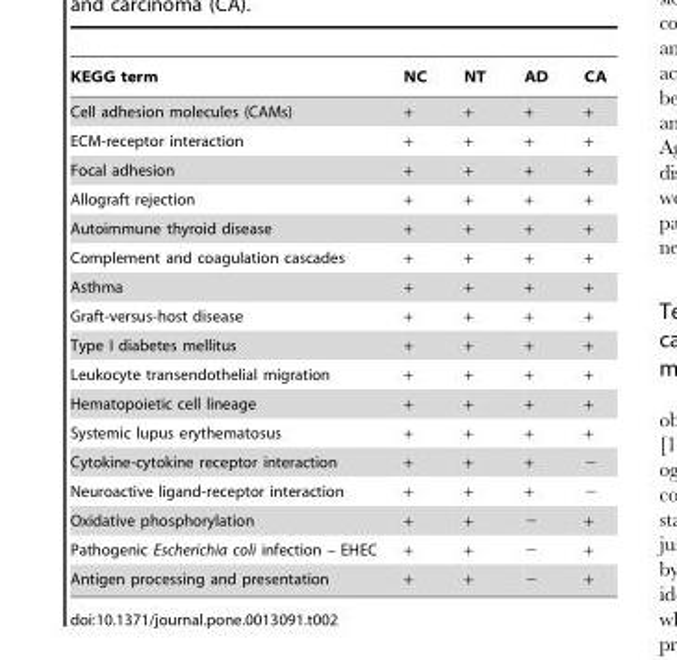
<table><thead><tr><td>KEGG term</td><td>NC</td><td>NT</td><td>AD</td><td>CA</td></tr></thead><tbody><tr><td>Cell adhesion molecules (CAMs)</td><td>+</td><td>+</td><td>+</td><td>+</td></tr><tr><td>ECM-receptor interaction</td><td>+</td><td>+</td><td>+</td><td>+</td></tr><tr><td>Focal adhesion</td><td>+</td><td>+</td><td>+</td><td>+</td></tr><tr><td>Allograft rejection</td><td>+</td><td>+</td><td>+</td><td>+</td></tr><tr><td>Autoimmune thyroid disease</td><td>+</td><td>+</td><td>+</td><td>+</td></tr><tr><td>Complement and coagulation cascades</td><td>+</td><td>+</td><td>+</td><td>+</td></tr><tr><td>Asthma</td><td>+</td><td>+</td><td>+</td><td>+</td></tr><tr><td>Graft-versus-host disease</td><td>+</td><td>+</td><td>+</td><td>+</td></tr><tr><td>Type I diabetes mellitus</td><td>+</td><td>+</td><td>+</td><td>+</td></tr><tr><td>Leukocyte transendothelial migration</td><td>+</td><td>+</td><td>+</td><td>+</td></tr><tr><td>Hematopoietic cell lineage</td><td>+</td><td>+</td><td>+</td><td>+</td></tr><tr><td>Systemic lupus erythematosus</td><td>+</td><td>+</td><td>+</td><td>+</td></tr><tr><td>Cytokine-cytokine receptor interaction</td><td>+</td><td>+</td><td>+</td><td>−</td></tr><tr><td>Neuroactive ligand-receptor interaction</td><td>+</td><td>+</td><td>+</td><td>−</td></tr><tr><td>Oxidative phosphorylation</td><td>+</td><td>+</td><td>−</td><td>+</td></tr><tr><td>Pathogenic Escherichia coli infection – EHEC</td><td>+</td><td>+</td><td>−</td><td>+</td></tr><tr><td>Antigen processing and presentation</td><td>+</td><td>+</td><td>−</td><td>+</td></tr></tbody></table>